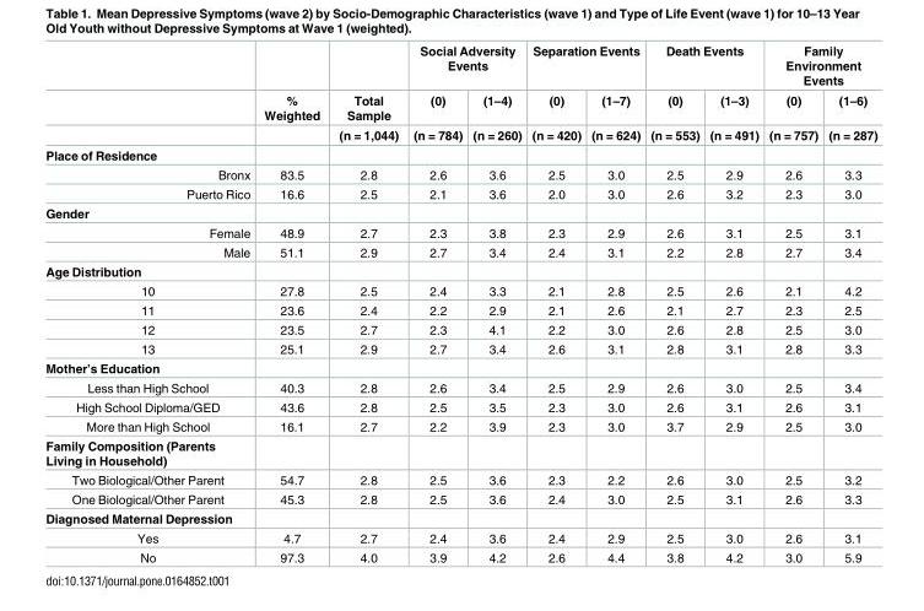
<table><thead><tr><td rowspan="3"></td><td rowspan="3">% Weighted</td><td rowspan="3">Total Sample (n = 1,044)</td><td colspan="2">Social Adversity Events</td><td colspan="2">Separation Events</td><td colspan="2">Death Events</td><td colspan="2">Family Environment Events</td></tr><tr><td rowspan="2">(0) (n = 784)</td><td rowspan="2">(1–4) (n = 260)</td><td rowspan="2">(0) (n = 420)</td><td rowspan="2">(1–7) (n = 624)</td><td rowspan="2">(0) (n = 553)</td><td rowspan="2">(1–3) (n = 491)</td><td rowspan="2">(0) (n = 757)</td><td rowspan="2">(1–6) (n = 287)</td></tr><tr></tr></thead><tbody><tr><td colspan="11">Place of Residence</td></tr><tr><td>Bronx</td><td>83.5</td><td>2.8</td><td>2.6</td><td>3.6</td><td>2.5</td><td>3.0</td><td>2.5</td><td>2.9</td><td>2.6</td><td>3.3</td></tr><tr><td>Puerto Rico</td><td>16.6</td><td>2.5</td><td>2.1</td><td>3.6</td><td>2.0</td><td>3.0</td><td>2.6</td><td>3.2</td><td>2.3</td><td>3.0</td></tr><tr><td colspan="11">Gender</td></tr><tr><td>Female</td><td>48.9</td><td>2.7</td><td>2.3</td><td>3.8</td><td>2.3</td><td>2.9</td><td>2.6</td><td>3.1</td><td>2.5</td><td>3.1</td></tr><tr><td>Male</td><td>51.1</td><td>2.9</td><td>2.7</td><td>3.4</td><td>2.4</td><td>3.1</td><td>2.2</td><td>2.8</td><td>2.7</td><td>3.4</td></tr><tr><td colspan="11">Age Distribution</td></tr><tr><td>10</td><td>27.8</td><td>2.5</td><td>2.4</td><td>3.3</td><td>2.1</td><td>2.8</td><td>2.5</td><td>2.6</td><td>2.1</td><td>4.2</td></tr><tr><td>11</td><td>23.6</td><td>2.4</td><td>2.2</td><td>2.9</td><td>2.1</td><td>2.6</td><td>2.1</td><td>2.7</td><td>2.3</td><td>2.5</td></tr><tr><td>12</td><td>23.5</td><td>2.7</td><td>2.3</td><td>4.1</td><td>2.2</td><td>3.0</td><td>2.6</td><td>2.8</td><td>2.5</td><td>3.0</td></tr><tr><td>13</td><td>25.1</td><td>2.9</td><td>2.7</td><td>3.4</td><td>2.6</td><td>3.1</td><td>2.8</td><td>3.1</td><td>2.8</td><td>3.3</td></tr><tr><td colspan="11">Mother’s Education</td></tr><tr><td>Less than High School</td><td>40.3</td><td>2.8</td><td>2.6</td><td>3.4</td><td>2.5</td><td>2.9</td><td>2.6</td><td>3.0</td><td>2.5</td><td>3.4</td></tr><tr><td>High School Diploma/GED</td><td>43.6</td><td>2.8</td><td>2.5</td><td>3.5</td><td>2.3</td><td>3.0</td><td>2.6</td><td>3.1</td><td>2.6</td><td>3.1</td></tr><tr><td>More than High School</td><td>16.1</td><td>2.7</td><td>2.2</td><td>3.9</td><td>2.3</td><td>3.0</td><td>3.7</td><td>2.9</td><td>2.5</td><td>3.0</td></tr><tr><td colspan="11">Family Composition (Parents Living in Household)</td></tr><tr><td>Two Biological/Other Parent</td><td>54.7</td><td>2.8</td><td>2.5</td><td>3.6</td><td>2.3</td><td>2.2</td><td>2.6</td><td>3.0</td><td>2.5</td><td>3.2</td></tr><tr><td>One Biological/Other Parent</td><td>45.3</td><td>2.8</td><td>2.5</td><td>3.6</td><td>2.4</td><td>3.0</td><td>2.5</td><td>3.1</td><td>2.6</td><td>3.3</td></tr><tr><td colspan="11">Diagnosed Maternal Depression</td></tr><tr><td>Yes</td><td>4.7</td><td>2.7</td><td>2.4</td><td>3.6</td><td>2.4</td><td>2.9</td><td>2.5</td><td>3.0</td><td>2.6</td><td>3.1</td></tr><tr><td>No</td><td>97.3</td><td>4.0</td><td>3.9</td><td>4.2</td><td>2.6</td><td>4.4</td><td>3.8</td><td>4.2</td><td>3.0</td><td>5.9</td></tr></tbody></table>